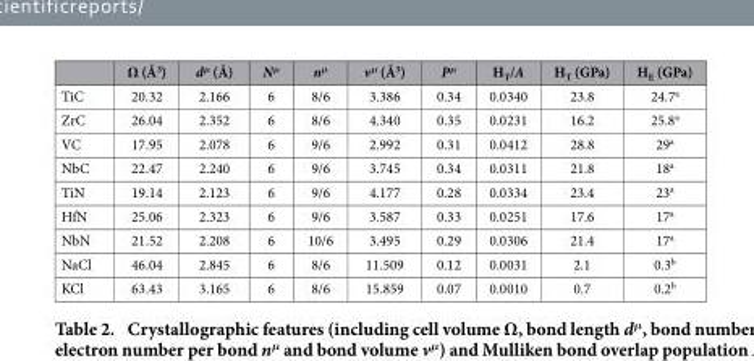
<table><thead><tr><td></td><td>Ω (Å<sup>3</sup>)</td><td>d<sup>μ</sup> (Å)</td><td>N<sup>μ</sup></td><td>n<sup>μ</sup></td><td>v<sup>μ</sup> (Å<sup>3</sup>)</td><td>P<sup>μ</sup></td><td>H<sub>T</sub>/A</td><td>H<sub>T</sub> (GPa)</td><td>H<sub>E</sub> (GPa)</td></tr></thead><tbody><tr><td>TiC</td><td>20.32</td><td>2.166</td><td>6</td><td>8/6</td><td>3.386</td><td>0.34</td><td>0.0340</td><td>23.8</td><td>24.7<sup>a</sup></td></tr><tr><td>ZrC</td><td>26.04</td><td>2.352</td><td>6</td><td>8/6</td><td>4.340</td><td>0.35</td><td>0.0231</td><td>16.2</td><td>25.8<sup>a</sup></td></tr><tr><td>VC</td><td>17.95</td><td>2.078</td><td>6</td><td>9/6</td><td>2.992</td><td>0.31</td><td>0.0412</td><td>28.8</td><td>29<sup>a</sup></td></tr><tr><td>NbC</td><td>22.47</td><td>2.240</td><td>6</td><td>9/6</td><td>3.745</td><td>0.34</td><td>0.0311</td><td>21.8</td><td>18<sup>a</sup></td></tr><tr><td>TiN</td><td>19.14</td><td>2.123</td><td>6</td><td>9/6</td><td>4.177</td><td>0.28</td><td>0.0334</td><td>23.4</td><td>23<sup>a</sup></td></tr><tr><td>HfN</td><td>25.06</td><td>2.323</td><td>6</td><td>9/6</td><td>3.587</td><td>0.33</td><td>0.0251</td><td>17.6</td><td>17<sup>a</sup></td></tr><tr><td>NbN</td><td>21.52</td><td>2.208</td><td>6</td><td>10/6</td><td>3.495</td><td>0.29</td><td>0.0306</td><td>21.4</td><td>17<sup>a</sup></td></tr><tr><td>NaCl</td><td>46.04</td><td>2.845</td><td>6</td><td>8/6</td><td>11.509</td><td>0.12</td><td>0.0031</td><td>2.1</td><td>0.3<sup>b</sup></td></tr><tr><td>KCl</td><td>63.43</td><td>3.165</td><td>6</td><td>8/6</td><td>15.859</td><td>0.07</td><td>0.0010</td><td>0.7</td><td>0.2<sup>b</sup></td></tr></tbody></table>